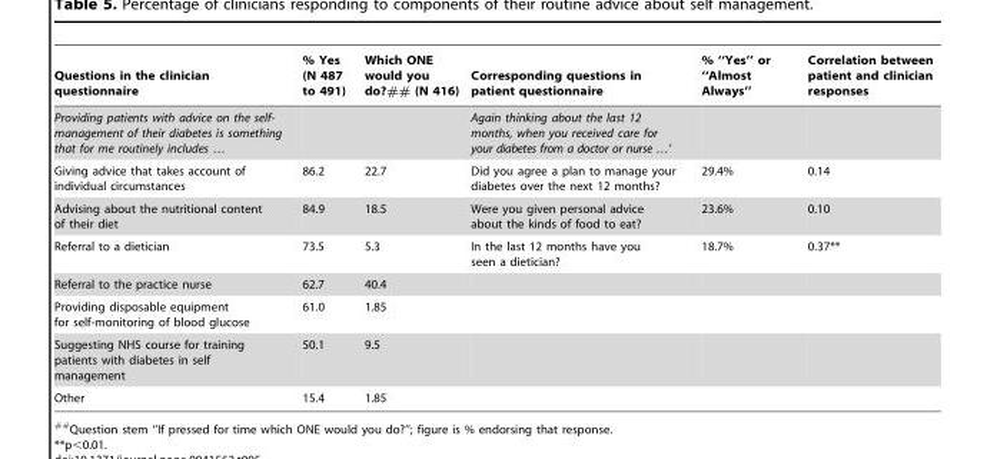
<table><thead><tr><td>Questions in the clinician questionnaire</td><td>% Yes (N 487 to 491)</td><td>Which ONE would you do?## (N 416)</td><td>Corresponding questions in patient questionnaire</td><td>% ‘‘Yes’’ or ‘‘Almost Always’’</td><td>Correlation between patient and clinician responses</td></tr></thead><tbody><tr><td>Providing patients with advice on the self- management of their diabetes is something that for me routinely includes …</td><td></td><td></td><td>Again thinking about the last 12 months, when you received care for your diabetes from a doctor or nurse …’</td><td></td><td></td></tr><tr><td>Giving advice that takes account of individual circumstances</td><td>86.2</td><td>22.7</td><td>Did you agree a plan to manage your diabetes over the next 12 months?</td><td>29.4%</td><td>0.14</td></tr><tr><td>Advising about the nutritional content of their diet</td><td>84.9</td><td>18.5</td><td>Were you given personal advice about the kinds of food to eat?</td><td>23.6%</td><td>0.10</td></tr><tr><td>Referral to a dietician</td><td>73.5</td><td>5.3</td><td>In the last 12 months have you seen a dietician?</td><td>18.7%</td><td>0.37**</td></tr><tr><td>Referral to the practice nurse</td><td>62.7</td><td>40.4</td><td></td><td></td><td></td></tr><tr><td>Providing disposable equipment for self-monitoring of blood glucose</td><td>61.0</td><td>1.85</td><td></td><td></td><td></td></tr><tr><td>Suggesting NHS course for training patients with diabetes in self management</td><td>50.1</td><td>9.5</td><td></td><td></td><td></td></tr><tr><td>Other</td><td>15.4</td><td>1.85</td><td></td><td></td><td></td></tr></tbody></table>